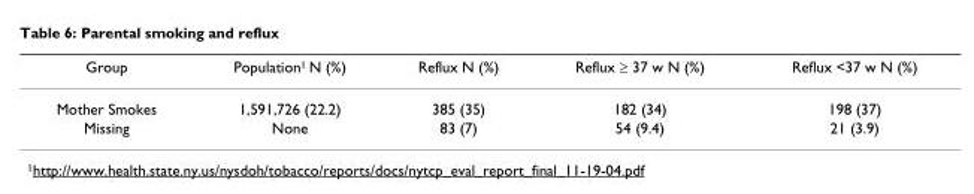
<table><thead><tr><td>Group</td><td>Population<sup>1</sup> N (%)</td><td>Reflux N (%)</td><td>Reflux ≥ 37 w N (%)</td><td>Reflux &lt;37 w N (%)</td></tr></thead><tbody><tr><td>Mother Smokes</td><td>1,591,726 (22.2)</td><td>385 (35)</td><td>182 (34)</td><td>198 (37)</td></tr><tr><td>Missing</td><td>None</td><td>83 (7)</td><td>54 (9.4)</td><td>21 (3.9)</td></tr></tbody></table>